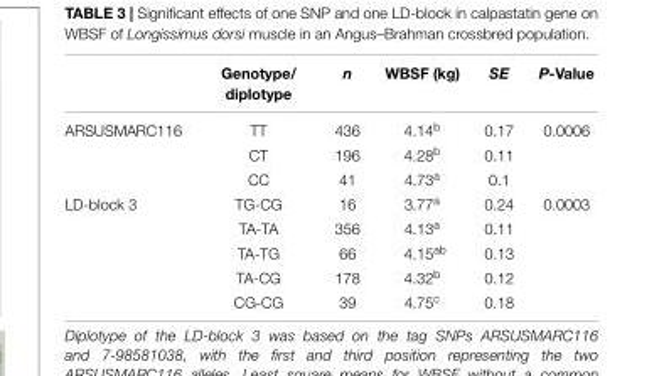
<table><thead><tr><td></td><td>Genotype/ diplotype</td><td>n</td><td>WBSF (kg)</td><td>SE</td><td>P-Value</td></tr></thead><tbody><tr><td rowspan="3">ARSUSMARC116</td><td>TT</td><td>436</td><td>4.14<sup>b</sup></td><td>0.17</td><td>0.0006</td></tr><tr><td>CT</td><td>196</td><td>4.28<sup>b</sup></td><td>0.11</td><td></td></tr><tr><td>CC</td><td>41</td><td>4.73<sup>a</sup></td><td>0.1</td><td></td></tr><tr><td rowspan="5">LD-block 3</td><td>TG-CG</td><td>16</td><td>3.77<sup>a</sup></td><td>0.24</td><td>0.0003</td></tr><tr><td>TA-TA</td><td>356</td><td>4.13<sup>a</sup></td><td>0.11</td><td></td></tr><tr><td>TA-TG</td><td>66</td><td>4.15<sup>ab</sup></td><td>0.13</td><td></td></tr><tr><td>TA-CG</td><td>178</td><td>4.32<sup>b</sup></td><td>0.12</td><td></td></tr><tr><td>CG-CG</td><td>39</td><td>4.75<sup>c</sup></td><td>0.18</td><td></td></tr></tbody></table>